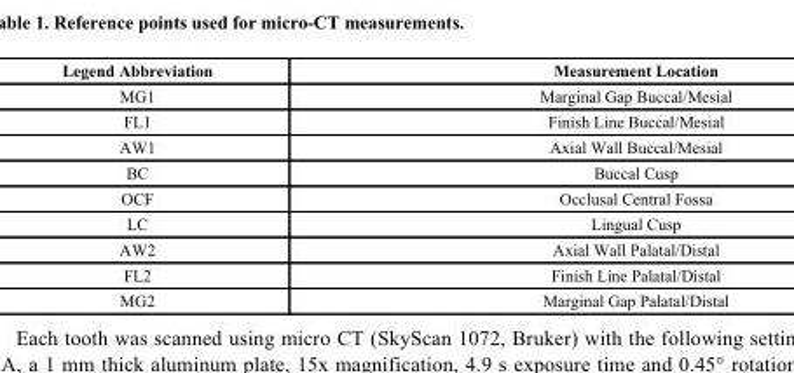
<table><thead><tr><td>Legend Abbreviation</td><td>Measurement Location</td></tr></thead><tbody><tr><td>MG1</td><td>Marginal Gap Buccal/Mesial</td></tr><tr><td>FL1</td><td>Finish Line Buccal/Mesial</td></tr><tr><td>AW1</td><td>Axial Wall Buccal/Mesial</td></tr><tr><td>BC</td><td>Buccal Cusp</td></tr><tr><td>OCF</td><td>Occlusal Central Fossa</td></tr><tr><td>LC</td><td>Lingual Cusp</td></tr><tr><td>AW2</td><td>Axial Wall Palatal/Distal</td></tr><tr><td>FL2</td><td>Finish Line Palatal/Distal</td></tr><tr><td>MG2</td><td>Marginal Gap Palatal/Distal</td></tr></tbody></table>